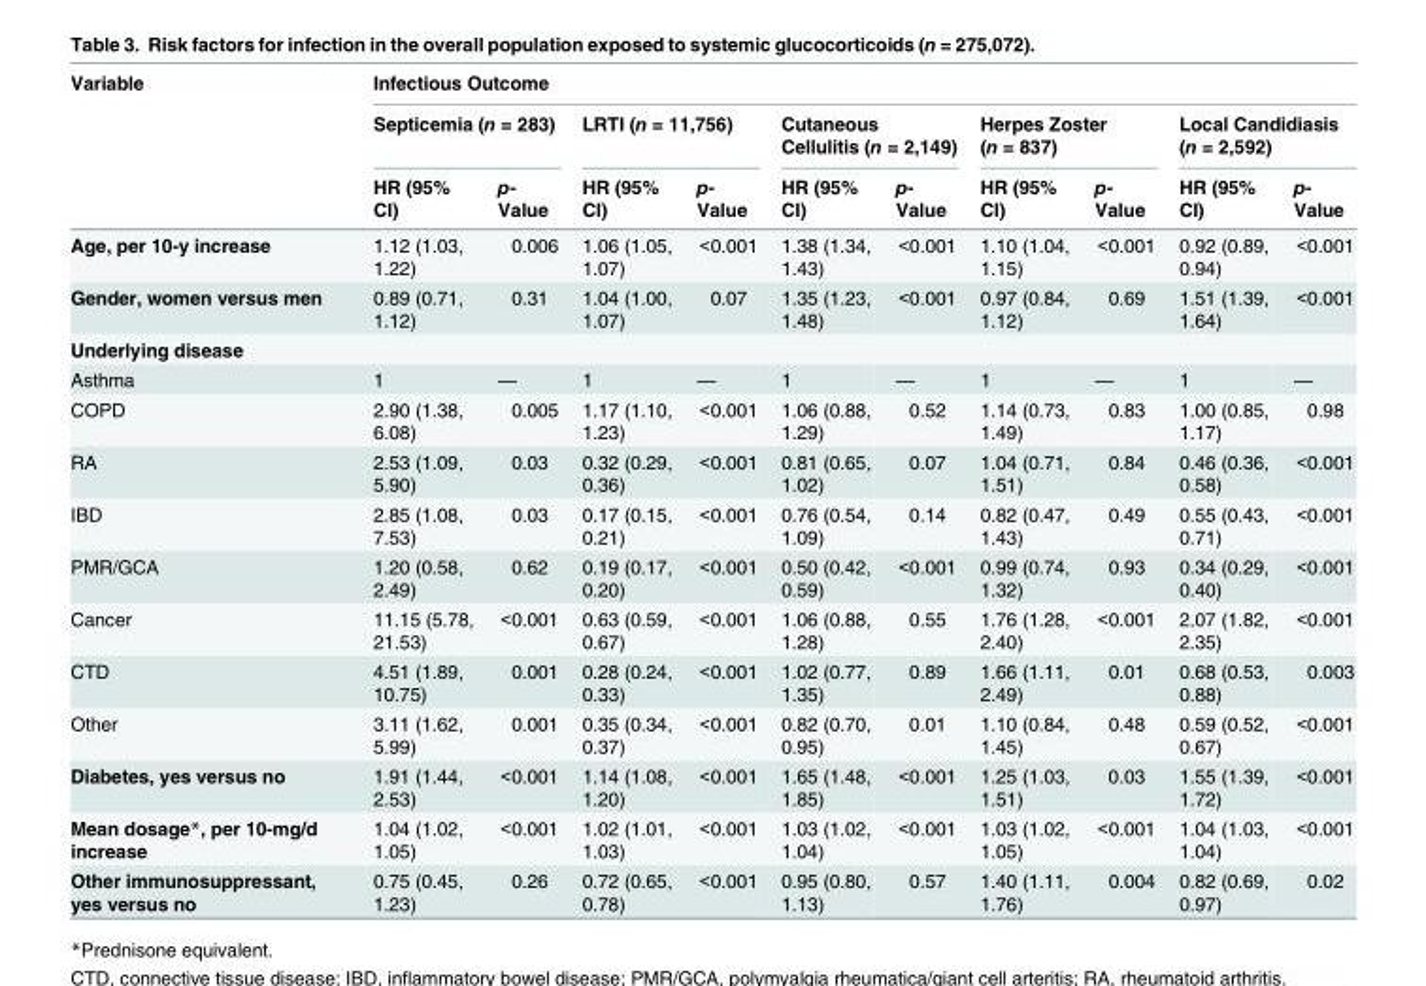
<table><thead><tr><td rowspan="3">Variable</td><td colspan="10">Infectious Outcome</td></tr><tr><td colspan="2">Septicemia (n = 283)</td><td colspan="2">LRTI (n = 11,756)</td><td colspan="2">Cutaneous Cellulitis (n = 2,149)</td><td colspan="2">Herpes Zoster (n = 837)</td><td colspan="2">Local Candidiasis (n = 2,592)</td></tr><tr><td>HR (95% CI)</td><td>p- Value</td><td>HR (95% CI)</td><td>p- Value</td><td>HR (95% CI)</td><td>p- Value</td><td>HR (95% CI)</td><td>p- Value</td><td>HR (95% CI)</td><td>p- Value</td></tr></thead><tbody><tr><td>Age, per 10-y increase</td><td>1.12 (1.03, 1.22)</td><td>0.006</td><td>1.06 (1.05, 1.07)</td><td>&lt;0.001</td><td>1.38 (1.34, 1.43)</td><td>&lt;0.001</td><td>1.10 (1.04, 1.15)</td><td>&lt;0.001</td><td>0.92 (0.89, 0.94)</td><td>&lt;0.001</td></tr><tr><td>Gender, women versus men</td><td>0.89 (0.71, 1.12)</td><td>0.31</td><td>1.04 (1.00, 1.07)</td><td>0.07</td><td>1.35 (1.23, 1.48)</td><td>&lt;0.001</td><td>0.97 (0.84, 1.12)</td><td>0.69</td><td>1.51 (1.39, 1.64)</td><td>&lt;0.001</td></tr><tr><td colspan="11">Underlying disease</td></tr><tr><td>Asthma</td><td>1</td><td>—</td><td>1</td><td>—</td><td>1</td><td>—</td><td>1</td><td>—</td><td>1</td><td>—</td></tr><tr><td>COPD</td><td>2.90 (1.38, 6.08)</td><td>0.005</td><td>1.17 (1.10, 1.23)</td><td>&lt;0.001</td><td>1.06 (0.88, 1.29)</td><td>0.52</td><td>1.14 (0.73, 1.49)</td><td>0.83</td><td>1.00 (0.85, 1.17)</td><td>0.98</td></tr><tr><td>RA</td><td>2.53 (1.09, 5.90)</td><td>0.03</td><td>0.32 (0.29, 0.36)</td><td>&lt;0.001</td><td>0.81 (0.65, 1.02)</td><td>0.07</td><td>1.04 (0.71, 1.51)</td><td>0.84</td><td>0.46 (0.36, 0.58)</td><td>&lt;0.001</td></tr><tr><td>IBD</td><td>2.85 (1.08, 7.53)</td><td>0.03</td><td>0.17 (0.15, 0.21)</td><td>&lt;0.001</td><td>0.76 (0.54, 1.09)</td><td>0.14</td><td>0.82 (0.47, 1.43)</td><td>0.49</td><td>0.55 (0.43, 0.71)</td><td>&lt;0.001</td></tr><tr><td>PMR/GCA</td><td>1.20 (0.58, 2.49)</td><td>0.62</td><td>0.19 (0.17, 0.20)</td><td>&lt;0.001</td><td>0.50 (0.42, 0.59)</td><td>&lt;0.001</td><td>0.99 (0.74, 1.32)</td><td>0.93</td><td>0.34 (0.29, 0.40)</td><td>&lt;0.001</td></tr><tr><td>Cancer</td><td>11.15 (5.78, 21.53)</td><td>&lt;0.001</td><td>0.63 (0.59, 0.67)</td><td>&lt;0.001</td><td>1.06 (0.88, 1.28)</td><td>0.55</td><td>1.76 (1.28, 2.40)</td><td>&lt;0.001</td><td>2.07 (1.82, 2.35)</td><td>&lt;0.001</td></tr><tr><td>CTD</td><td>4.51 (1.89, 10.75)</td><td>0.001</td><td>0.28 (0.24, 0.33)</td><td>&lt;0.001</td><td>1.02 (0.77, 1.35)</td><td>0.89</td><td>1.66 (1.11, 2.49)</td><td>0.01</td><td>0.68 (0.53, 0.88)</td><td>0.003</td></tr><tr><td>Other</td><td>3.11 (1.62, 5.99)</td><td>0.001</td><td>0.35 (0.34, 0.37)</td><td>&lt;0.001</td><td>0.82 (0.70, 0.95)</td><td>0.01</td><td>1.10 (0.84, 1.45)</td><td>0.48</td><td>0.59 (0.52, 0.67)</td><td>&lt;0.001</td></tr><tr><td>Diabetes, yes versus no</td><td>1.91 (1.44, 2.53)</td><td>&lt;0.001</td><td>1.14 (1.08, 1.20)</td><td>&lt;0.001</td><td>1.65 (1.48, 1.85)</td><td>&lt;0.001</td><td>1.25 (1.03, 1.51)</td><td>0.03</td><td>1.55 (1.39, 1.72)</td><td>&lt;0.001</td></tr><tr><td>Mean dosage*, per 10-mg/d increase</td><td>1.04 (1.02, 1.05)</td><td>&lt;0.001</td><td>1.02 (1.01, 1.03)</td><td>&lt;0.001</td><td>1.03 (1.02, 1.04)</td><td>&lt;0.001</td><td>1.03 (1.02, 1.05)</td><td>&lt;0.001</td><td>1.04 (1.03, 1.04)</td><td>&lt;0.001</td></tr><tr><td>Other immunosuppressant, yes versus no</td><td>0.75 (0.45, 1.23)</td><td>0.26</td><td>0.72 (0.65, 0.78)</td><td>&lt;0.001</td><td>0.95 (0.80, 1.13)</td><td>0.57</td><td>1.40 (1.11, 1.76)</td><td>0.004</td><td>0.82 (0.69, 0.97)</td><td>0.02</td></tr></tbody></table>